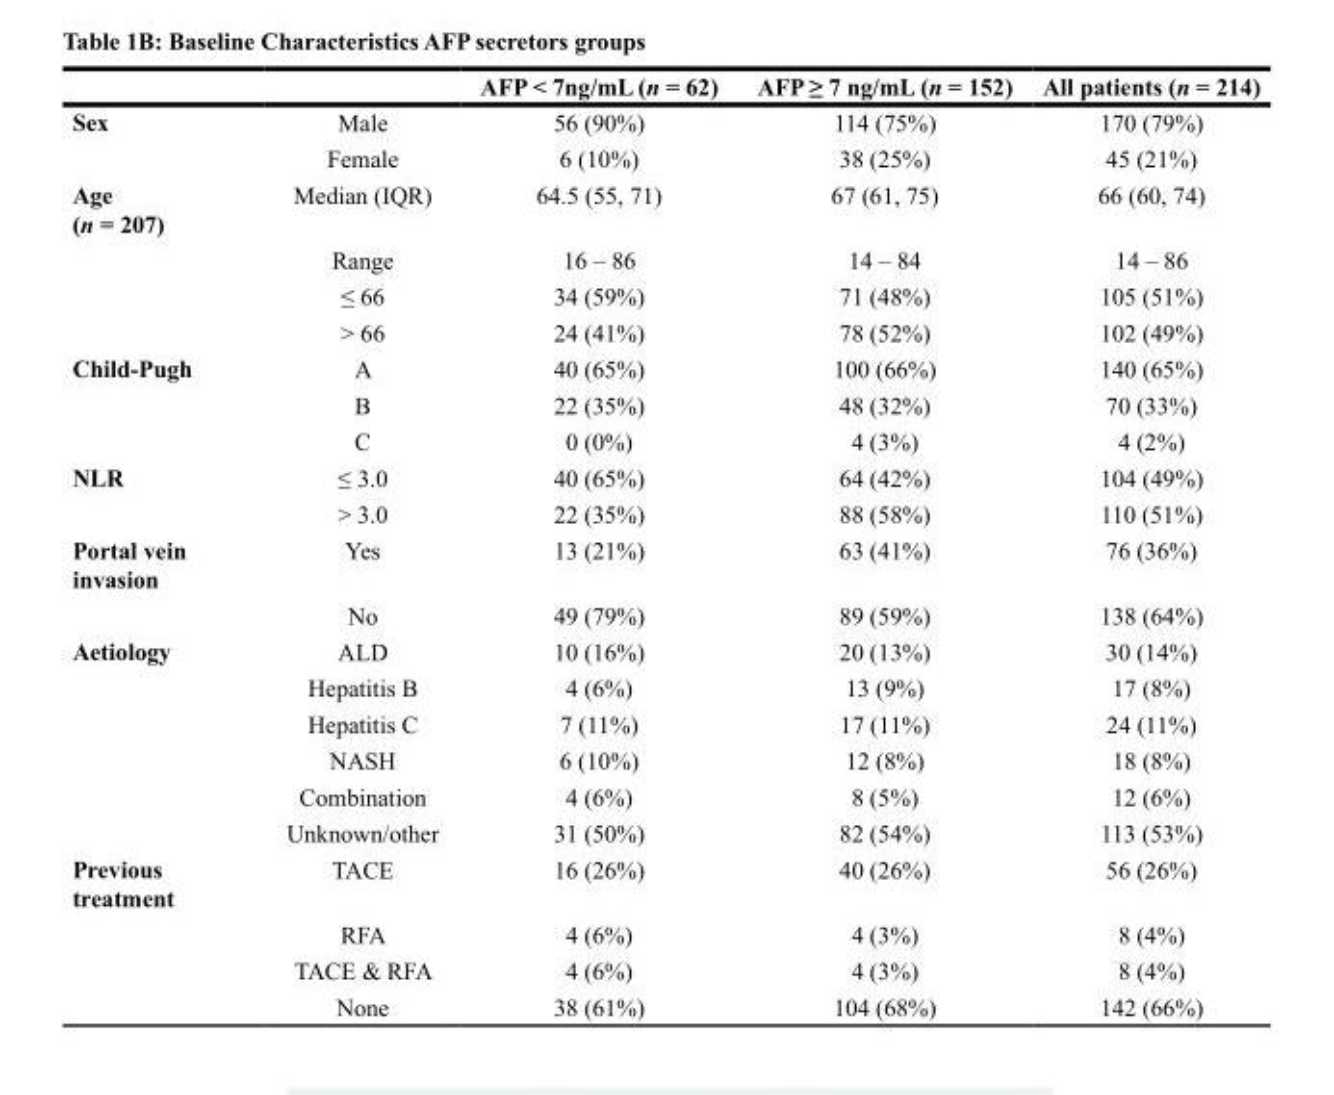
<table><thead><tr><td></td><td></td><td>AFP &lt; 7ng/mL (n = 62)</td><td>AFP ≥ 7 ng/mL (n = 152)</td><td>All patients (n = 214)</td></tr></thead><tbody><tr><td rowspan="2">Sex</td><td>Male</td><td>56 (90%)</td><td>114 (75%)</td><td>170 (79%)</td></tr><tr><td>Female</td><td>6 (10%)</td><td>38 (25%)</td><td>45 (21%)</td></tr><tr><td rowspan="4">Age (n = 207)</td><td>Median (IQR)</td><td>64.5 (55, 71)</td><td>67 (61, 75)</td><td>66 (60, 74)</td></tr><tr><td>Range</td><td>16 – 86</td><td>14 – 84</td><td>14 – 86</td></tr><tr><td>≤ 66</td><td>34 (59%)</td><td>71 (48%)</td><td>105 (51%)</td></tr><tr><td>&gt; 66</td><td>24 (41%)</td><td>78 (52%)</td><td>102 (49%)</td></tr><tr><td rowspan="3">Child-Pugh</td><td>A</td><td>40 (65%)</td><td>100 (66%)</td><td>140 (65%)</td></tr><tr><td>B</td><td>22 (35%)</td><td>48 (32%)</td><td>70 (33%)</td></tr><tr><td>C</td><td>0 (0%)</td><td>4 (3%)</td><td>4 (2%)</td></tr><tr><td rowspan="2">NLR</td><td>≤ 3.0</td><td>40 (65%)</td><td>64 (42%)</td><td>104 (49%)</td></tr><tr><td>&gt; 3.0</td><td>22 (35%)</td><td>88 (58%)</td><td>110 (51%)</td></tr><tr><td rowspan="2">Portal vein invasion</td><td>Yes</td><td>13 (21%)</td><td>63 (41%)</td><td>76 (36%)</td></tr><tr><td>No</td><td>49 (79%)</td><td>89 (59%)</td><td>138 (64%)</td></tr><tr><td rowspan="6">Aetiology</td><td>ALD</td><td>10 (16%)</td><td>20 (13%)</td><td>30 (14%)</td></tr><tr><td>Hepatitis B</td><td>4 (6%)</td><td>13 (9%)</td><td>17 (8%)</td></tr><tr><td>Hepatitis C</td><td>7 (11%)</td><td>17 (11%)</td><td>24 (11%)</td></tr><tr><td>NASH</td><td>6 (10%)</td><td>12 (8%)</td><td>18 (8%)</td></tr><tr><td>Combination</td><td>4 (6%)</td><td>8 (5%)</td><td>12 (6%)</td></tr><tr><td>Unknown/other</td><td>31 (50%)</td><td>82 (54%)</td><td>113 (53%)</td></tr><tr><td rowspan="4">Previous treatment</td><td>TACE</td><td>16 (26%)</td><td>40 (26%)</td><td>56 (26%)</td></tr><tr><td>RFA</td><td>4 (6%)</td><td>4 (3%)</td><td>8 (4%)</td></tr><tr><td>TACE &amp; RFA</td><td>4 (6%)</td><td>4 (3%)</td><td>8 (4%)</td></tr><tr><td>None</td><td>38 (61%)</td><td>104 (68%)</td><td>142 (66%)</td></tr></tbody></table>